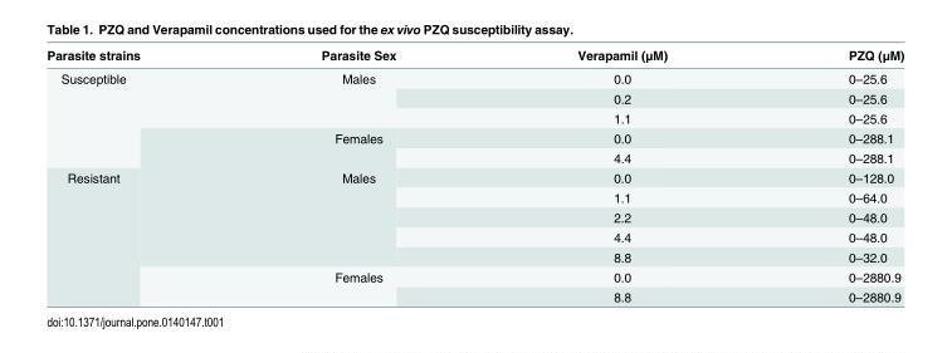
<table><thead><tr><td>Parasite strains</td><td>Parasite Sex</td><td>Verapamil (μM)</td><td>PZQ (μM)</td></tr></thead><tbody><tr><td rowspan="5">Susceptible</td><td rowspan="3">Males</td><td>0.0</td><td>0–25.6</td></tr><tr><td>0.2</td><td>0–25.6</td></tr><tr><td>1.1</td><td>0–25.6</td></tr><tr><td rowspan="2">Females</td><td>0.0</td><td>0–288.1</td></tr><tr><td>4.4</td><td>0–288.1</td></tr><tr><td rowspan="7">Resistant</td><td rowspan="5">Males</td><td>0.0</td><td>0–128.0</td></tr><tr><td>1.1</td><td>0–64.0</td></tr><tr><td>2.2</td><td>0–48.0</td></tr><tr><td>4.4</td><td>0–48.0</td></tr><tr><td>8.8</td><td>0–32.0</td></tr><tr><td rowspan="2">Females</td><td>0.0</td><td>0–2880.9</td></tr><tr><td>8.8</td><td>0–2880.9</td></tr></tbody></table>